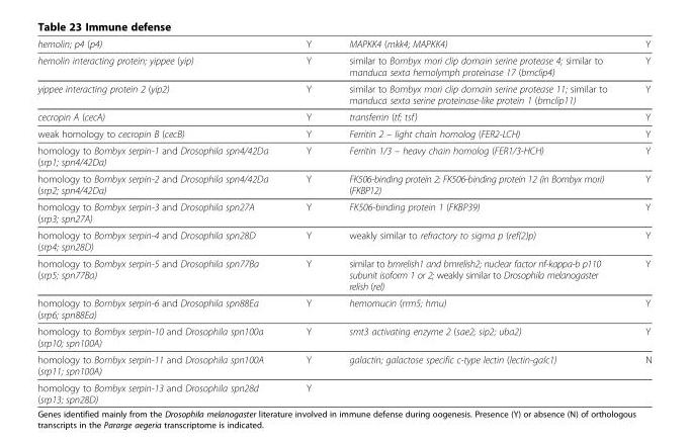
<table><tbody><tr><td>hemolin; p4 (p4)</td><td>Y</td><td>MAPKK4 (mkk4; MAPKK4)</td><td>Y</td></tr><tr><td>hemolin interacting protein; yippee (yip)</td><td>Y</td><td>similar to Bombyx mori clip domain serine protease 4; similar to manduca sexta hemolymph proteinase 17 (bmclip4)</td><td>Y</td></tr><tr><td>yippee interacting protein 2 (yip2)</td><td>Y</td><td>similar to Bombyx mori clip domain serine protease 11; similar to manduca sexta serine proteinase-like protein 1 (bmclip11)</td><td>Y</td></tr><tr><td>cecropin A (cecA)</td><td>Y</td><td>transferrin (tf; tsf)</td><td>Y</td></tr><tr><td>weak homology to cecropin B (cecB)</td><td>Y</td><td>Ferritin 2 – light chain homolog (FER2-LCH)</td><td>Y</td></tr><tr><td>homology to Bombyx serpin-1 and Drosophila spn4/42Da (srp1; spn4/42Da)</td><td>Y</td><td>Ferritin 1/3 – heavy chain homolog (FER1/3-HCH)</td><td>Y</td></tr><tr><td>homology to Bombyx serpin-2 and Drosophila spn4/42Da (srp2; spn4/42Da)</td><td>Y</td><td>FK506-binding protein 2; FK506-binding protein 12 (in Bombyx mori) (FKBP12)</td><td>Y</td></tr><tr><td>homology to Bombyx serpin-3 and Drosophila spn27A (srp3; spn27A)</td><td>Y</td><td>FK506-binding protein 1 (FKBP39)</td><td>Y</td></tr><tr><td>homology to Bombyx serpin-4 and Drosophila spn28D (srp4; spn28D)</td><td>Y</td><td>weakly similar to refractory to sigma p (ref(2)p)</td><td>Y</td></tr><tr><td>homology to Bombyx serpin-5 and Drosophila spn77Ba (srp5; spn77Ba)</td><td>Y</td><td>similar to bmrelish1 and bmrelish2; nuclear factor nf-kappa-b p110 subunit isoform 1 or 2; weakly similar to Drosophila melanogaster relish (rel)</td><td>Y</td></tr><tr><td>homology to Bombyx serpin-6 and Drosophila spn88Ea (srp6; spn88Ea)</td><td>Y</td><td>hemomucin (rrm5; hmu)</td><td>Y</td></tr><tr><td>homology to Bombyx serpin-10 and Drosophila spn100a (srp10; spn100A)</td><td>Y</td><td>smt3 activating enzyme 2 (sae2; sip2; uba2)</td><td>Y</td></tr><tr><td>homology to Bombyx serpin-11 and Drosophila spn100A (srp11; spn100A)</td><td>Y</td><td>galactin; galactose specific c-type lectin (lectin-galc1)</td><td>N</td></tr><tr><td>homology to Bombyx serpin-13 and Drosophila spn28d (srp13; spn28D)</td><td>Y</td><td></td><td></td></tr></tbody></table>